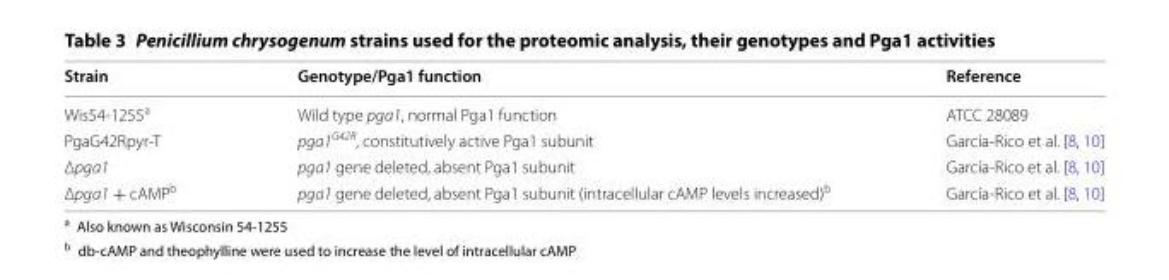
<table><thead><tr><td>Strain</td><td>Genotype/Pga1 function</td><td>Reference</td></tr></thead><tbody><tr><td>Wis54‑1255<sup>a</sup></td><td>Wild type pga1, normal Pga1 function</td><td>ATCC 28089</td></tr><tr><td>PgaG42Rpyr‑T</td><td>pga1<sup>G42R</sup>, constitutively active Pga1 subunit</td><td>García‑Rico et al. [8, 10]</td></tr><tr><td>Δpga1</td><td>pga1 gene deleted, absent Pga1 subunit</td><td>García‑Rico et al. [8, 10]</td></tr><tr><td>Δpga1 + cAMP<sup>b</sup></td><td>pga1 gene deleted, absent Pga1 subunit (intracellular cAMP levels increased)<sup>b</sup></td><td>García‑Rico et al. [8, 10]</td></tr></tbody></table>